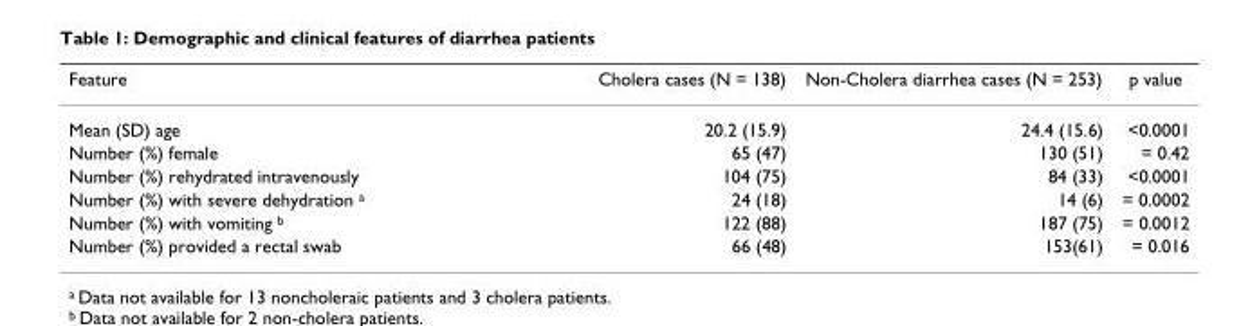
<table><thead><tr><td>Feature</td><td>Cholera cases (N = 138)</td><td>Non-Cholera diarrhea cases (N = 253)</td><td>p value</td></tr></thead><tbody><tr><td>Mean (SD) age</td><td>20.2 (15.9)</td><td>24.4 (15.6)</td><td>&lt;0.0001</td></tr><tr><td>Number (%) female</td><td>65 (47)</td><td>130 (51)</td><td>= 0.42</td></tr><tr><td>Number (%) rehydrated intravenously</td><td>104 (75)</td><td>84 (33)</td><td>&lt;0.0001</td></tr><tr><td>Number (%) with severe dehydration <sup>a</sup></td><td>24 (18)</td><td>14 (6)</td><td>= 0.0002</td></tr><tr><td>Number (%) with vomiting <sup>b</sup></td><td>122 (88)</td><td>187 (75)</td><td>= 0.0012</td></tr><tr><td>Number (%) provided a rectal swab</td><td>66 (48)</td><td>153(61)</td><td>= 0.016</td></tr></tbody></table>